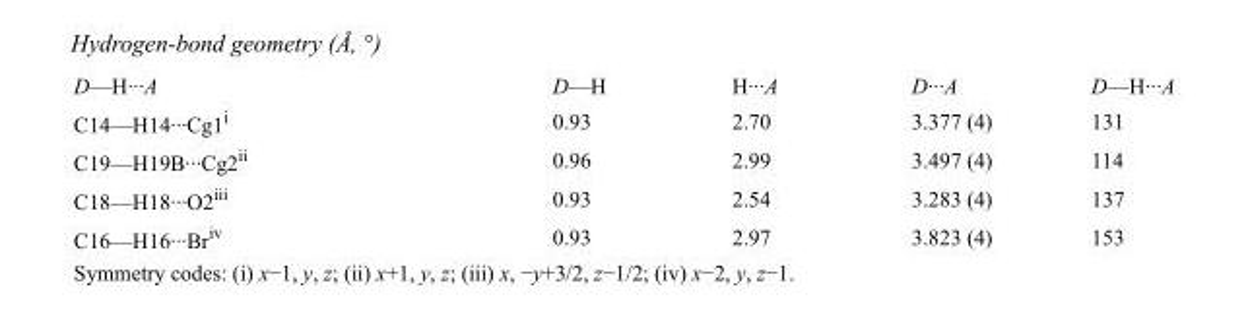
<table><tbody><tr><td>D—H···A</td><td>D—H</td><td>H···A</td><td>D···A</td><td>D—H···A</td></tr><tr><td>C14—H14···Cg1<sup>i</sup></td><td>0.93</td><td>2.70</td><td>3.377 (4)</td><td>131</td></tr><tr><td>C19—H19B···Cg2<sup>ii</sup></td><td>0.96</td><td>2.99</td><td>3.497 (4)</td><td>114</td></tr><tr><td>C18—H18···O2<sup>iii</sup></td><td>0.93</td><td>2.54</td><td>3.283 (4)</td><td>137</td></tr><tr><td>C16—H16···Br<sup>iv</sup></td><td>0.93</td><td>2.97</td><td>3.823 (4)</td><td>153</td></tr></tbody></table>